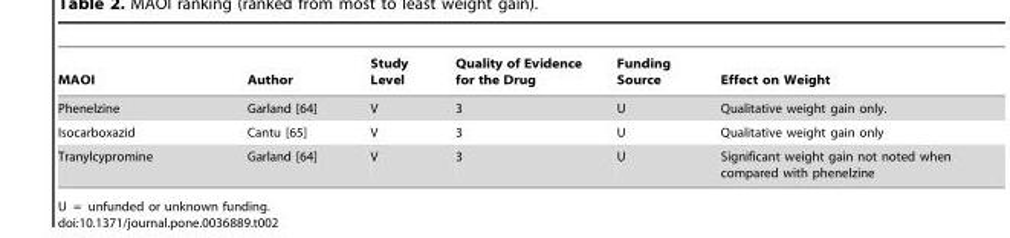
<table><thead><tr><td>MAOI</td><td>Author</td><td>Study Level</td><td>Quality of Evidence for the Drug</td><td>Funding Source</td><td>Effect on Weight</td></tr></thead><tbody><tr><td>Phenelzine</td><td>Garland [64]</td><td>V</td><td>3</td><td>U</td><td>Qualitative weight gain only.</td></tr><tr><td>Isocarboxazid</td><td>Cantu [65]</td><td>V</td><td>3</td><td>U</td><td>Qualitative weight gain only</td></tr><tr><td>Tranylcypromine</td><td>Garland [64]</td><td>V</td><td>3</td><td>U</td><td>Significant weight gain not noted when compared with phenelzine</td></tr></tbody></table>